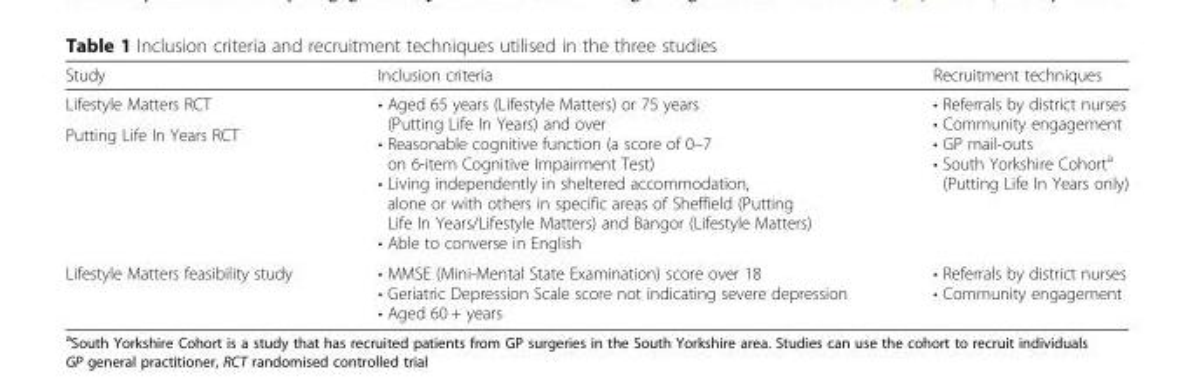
<table><thead><tr><td>Study</td><td>Inclusion criteria</td><td>Recruitment techniques</td></tr></thead><tbody><tr><td>Lifestyle Matters RCT</td><td rowspan="2">• Aged 65 years (Lifestyle Matters) or 75 years (Putting Life In Years) and over • Reasonable cognitive function (a score of 0–7 on 6-item Cognitive Impairment Test) • Living independently in sheltered accommodation, alone or with others in specific areas of Sheffield (Putting Life In Years/Lifestyle Matters) and Bangor (Lifestyle Matters) • Able to converse in English</td><td rowspan="2">• Referrals by district nurses • Community engagement • GP mail-outs • South Yorkshire Cohort<sup>a</sup> (Putting Life In Years only)</td></tr><tr><td>Putting Life In Years RCT</td></tr><tr><td>Lifestyle Matters feasibility study</td><td>• MMSE (Mini-Mental State Examination) score over 18 • Geriatric Depression Scale score not indicating severe depression • Aged 60 + years</td><td>• Referrals by district nurses • Community engagement</td></tr></tbody></table>